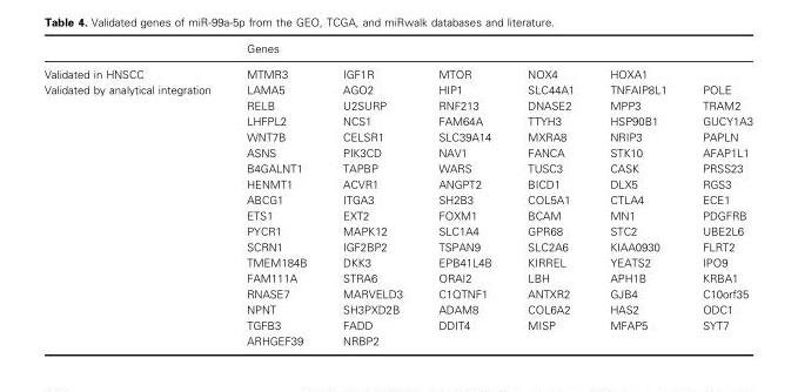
<table><thead><tr><td rowspan="2">Validated in HNSCC</td><td colspan="6">Genes</td></tr><tr><td>MTMR3</td><td>IGF1R</td><td>MTOR</td><td>NOX4</td><td>HOXA1</td><td></td></tr></thead><tbody><tr><td rowspan="17">Validated by analytical integration</td><td>LAMA5</td><td>AGO2</td><td>HIP1</td><td>SLC44A1</td><td>TNFAIP8L1</td><td>POLE</td></tr><tr><td>RELB</td><td>U2SURP</td><td>RNF213</td><td>DNASE2</td><td>MPP3</td><td>TRAM2</td></tr><tr><td>LHFPL2</td><td>NCS1</td><td>FAM64A</td><td>TTYH3</td><td>HSP90B1</td><td>GUCY1A3</td></tr><tr><td>WNT7B</td><td>CELSR1</td><td>SLC39A14</td><td>MXRA8</td><td>NRIP3</td><td>PAPLN</td></tr><tr><td>ASNS</td><td>PIK3CD</td><td>NAV1</td><td>FANCA</td><td>STK10</td><td>AFAP1L1</td></tr><tr><td>B4GALNT1</td><td>TAPBP</td><td>WARS</td><td>TUSC3</td><td>CASK</td><td>PRSS23</td></tr><tr><td>HENMT1</td><td>ACVR1</td><td>ANGPT2</td><td>BICD1</td><td>DLX5</td><td>RGS3</td></tr><tr><td>ABCG1</td><td>ITGA3</td><td>SH2B3</td><td>COL5A1</td><td>CTLA4</td><td>ECE1</td></tr><tr><td>ETS1</td><td>EXT2</td><td>FOXM1</td><td>BCAM</td><td>MN1</td><td>PDGFRB</td></tr><tr><td>PYCR1</td><td>MAPK12</td><td>SLC1A4</td><td>GPR68</td><td>STC2</td><td>UBE2L6</td></tr><tr><td>SCRN1</td><td>IGF2BP2</td><td>TSPAN9</td><td>SLC2A6</td><td>KIAA0930</td><td>FLRT2</td></tr><tr><td>TMEM184B</td><td>DKK3</td><td>EPB41L4B</td><td>KIRREL</td><td>YEATS2</td><td>IPO9</td></tr><tr><td>FAM111A</td><td>STRA6</td><td>ORAI2</td><td>LBH</td><td>APH1B</td><td>KRBA1</td></tr><tr><td>RNASE7</td><td>MARVELD3</td><td>C1QTNF1</td><td>ANTXR2</td><td>GJB4</td><td>C10orf35</td></tr><tr><td>NPNT</td><td>SH3PXD2B</td><td>ADAM8</td><td>COL6A2</td><td>HAS2</td><td>ODC1</td></tr><tr><td>TGFB3</td><td>FADD</td><td>DDIT4</td><td>MISP</td><td>MFAP5</td><td>SYT7</td></tr><tr><td>ARHGEF39</td><td>NRBP2</td><td></td><td></td><td></td><td></td></tr></tbody></table>